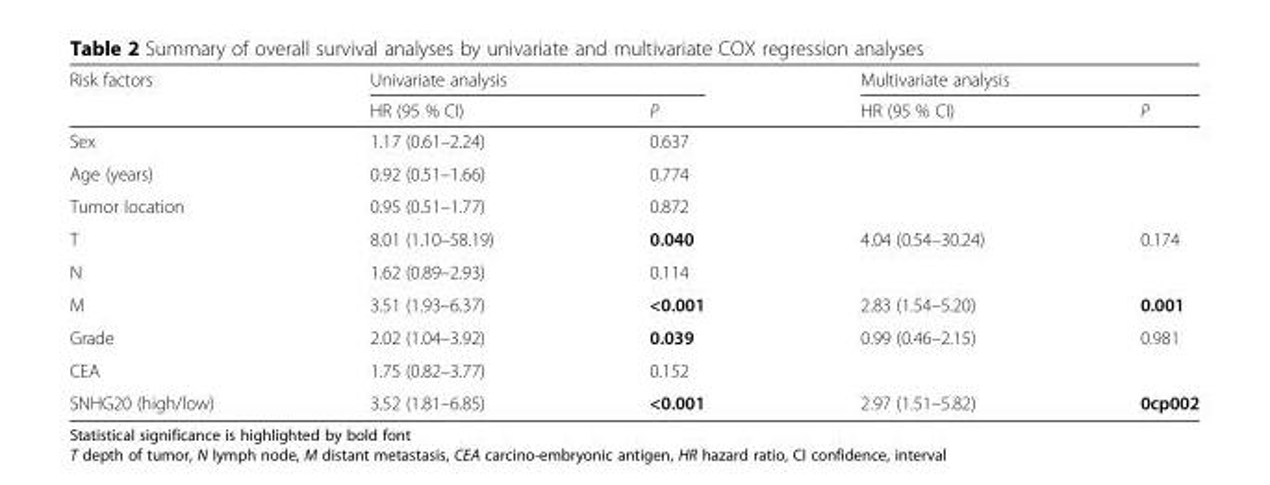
<table><thead><tr><td rowspan="2">Risk factors</td><td colspan="2">Univariate analysis</td><td colspan="2">Multivariate analysis</td></tr><tr><td>HR (95 % CI)</td><td>P</td><td>HR (95 % CI)</td><td>P</td></tr></thead><tbody><tr><td>Sex</td><td>1.17 (0.61–2.24)</td><td>0.637</td><td></td><td></td></tr><tr><td>Age (years)</td><td>0.92 (0.51–1.66)</td><td>0.774</td><td></td><td></td></tr><tr><td>Tumor location</td><td>0.95 (0.51–1.77)</td><td>0.872</td><td></td><td></td></tr><tr><td>T</td><td>8.01 (1.10–58.19)</td><td>0.040</td><td>4.04 (0.54–30.24)</td><td>0.174</td></tr><tr><td>N</td><td>1.62 (0.89–2.93)</td><td>0.114</td><td></td><td></td></tr><tr><td>M</td><td>3.51 (1.93–6.37)</td><td>&lt;0.001</td><td>2.83 (1.54–5.20)</td><td>0.001</td></tr><tr><td>Grade</td><td>2.02 (1.04–3.92)</td><td>0.039</td><td>0.99 (0.46–2.15)</td><td>0.981</td></tr><tr><td>CEA</td><td>1.75 (0.82–3.77)</td><td>0.152</td><td></td><td></td></tr><tr><td>SNHG20 (high/low)</td><td>3.52 (1.81–6.85)</td><td>&lt;0.001</td><td>2.97 (1.51–5.82)</td><td>0cp002</td></tr></tbody></table>